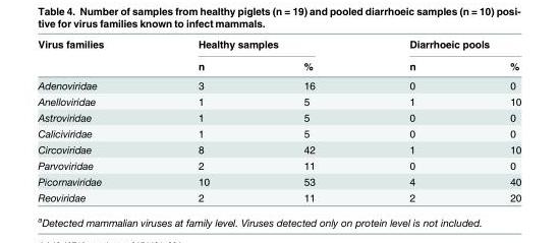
<table><thead><tr><td rowspan="2">Virus families</td><td colspan="2">Healthy samples</td><td colspan="2">Diarrhoeic pools</td></tr><tr><td>n</td><td>%</td><td>n</td><td>%</td></tr></thead><tbody><tr><td>Adenoviridae</td><td>3</td><td>16</td><td>0</td><td>0</td></tr><tr><td>Anelloviridae</td><td>1</td><td>5</td><td>1</td><td>10</td></tr><tr><td>Astroviridae</td><td>1</td><td>5</td><td>0</td><td>0</td></tr><tr><td>Caliciviridae</td><td>1</td><td>5</td><td>0</td><td>0</td></tr><tr><td>Circoviridae</td><td>8</td><td>42</td><td>1</td><td>10</td></tr><tr><td>Parvoviridae</td><td>2</td><td>11</td><td>0</td><td>0</td></tr><tr><td>Picornaviridae</td><td>10</td><td>53</td><td>4</td><td>40</td></tr><tr><td>Reoviridae</td><td>2</td><td>11</td><td>2</td><td>20</td></tr></tbody></table>